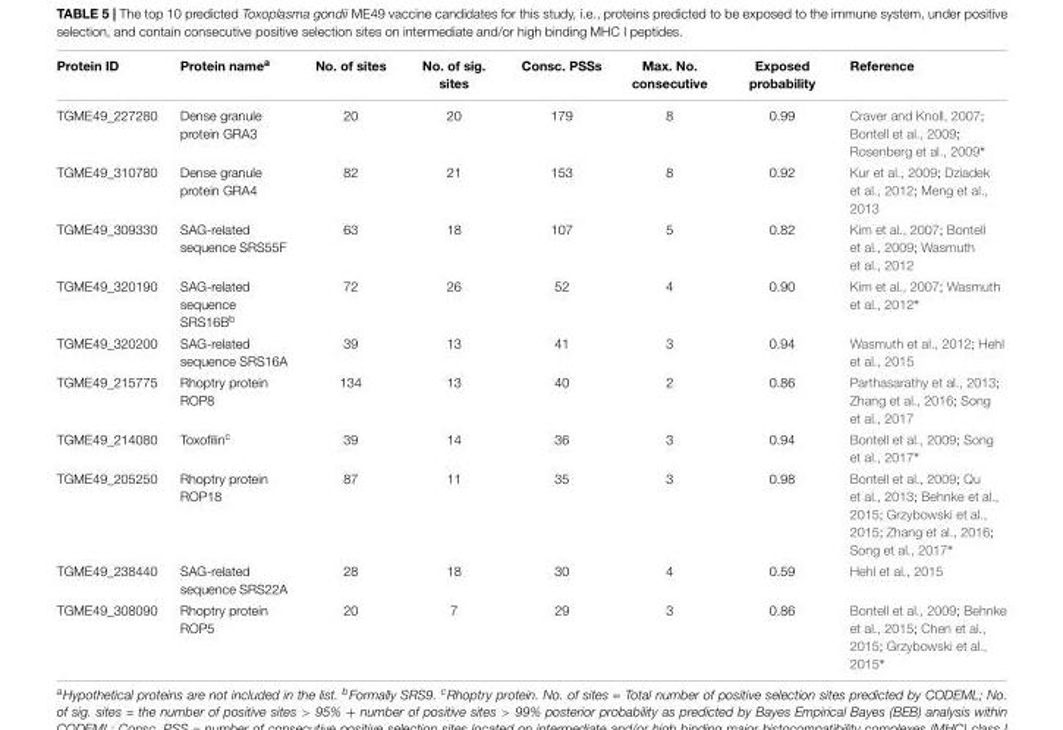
<table><thead><tr><td>Protein ID</td><td>Protein name<sup>a</sup></td><td>No. of sites</td><td>No. of sig. sites</td><td>Consc. PSSs</td><td>Max. No. consecutive</td><td>Exposed probability</td><td>Reference</td></tr></thead><tbody><tr><td>TGME49_227280</td><td>Dense granule protein GRA3</td><td>20</td><td>20</td><td>179</td><td>8</td><td>0.99</td><td>Craver and Knoll, 2007; Bontell et al., 2009; Rosenberg et al., 2009∗</td></tr><tr><td>TGME49_310780</td><td>Dense granule protein GRA4</td><td>82</td><td>21</td><td>153</td><td>8</td><td>0.92</td><td>Kur et al., 2009; Dziadek et al., 2012; Meng et al., 2013</td></tr><tr><td>TGME49_309330</td><td>SAG-related sequence SRS55F</td><td>63</td><td>18</td><td>107</td><td>5</td><td>0.82</td><td>Kim et al., 2007; Bontell et al., 2009; Wasmuth et al., 2012</td></tr><tr><td>TGME49_320190</td><td>SAG-related sequence SRS16B<sup>b</sup></td><td>72</td><td>26</td><td>52</td><td>4</td><td>0.90</td><td>Kim et al., 2007; Wasmuth et al., 2012∗</td></tr><tr><td>TGME49_320200</td><td>SAG-related sequence SRS16A</td><td>39</td><td>13</td><td>41</td><td>3</td><td>0.94</td><td>Wasmuth et al., 2012; Hehl et al., 2015</td></tr><tr><td>TGME49_215775</td><td>Rhoptry protein ROP8</td><td>134</td><td>13</td><td>40</td><td>2</td><td>0.86</td><td>Parthasarathy et al., 2013; Zhang et al., 2016; Song et al., 2017</td></tr><tr><td>TGME49_214080</td><td>Toxofilin<sup>c</sup></td><td>39</td><td>14</td><td>36</td><td>3</td><td>0.94</td><td>Bontell et al., 2009; Song et al., 2017∗</td></tr><tr><td>TGME49_205250</td><td>Rhoptry protein ROP18</td><td>87</td><td>11</td><td>35</td><td>3</td><td>0.98</td><td>Bontell et al., 2009; Qu et al., 2013; Behnke et al., 2015; Grzybowski et al., 2015; Zhang et al., 2016; Song et al., 2017∗</td></tr><tr><td>TGME49_238440</td><td>SAG-related sequence SRS22A</td><td>28</td><td>18</td><td>30</td><td>4</td><td>0.59</td><td>Hehl et al., 2015</td></tr><tr><td>TGME49_308090</td><td>Rhoptry protein ROP5</td><td>20</td><td>7</td><td>29</td><td>3</td><td>0.86</td><td>Bontell et al., 2009; Behnke et al., 2015; Chen et al., 2015; Grzybowski et al., 2015∗</td></tr></tbody></table>